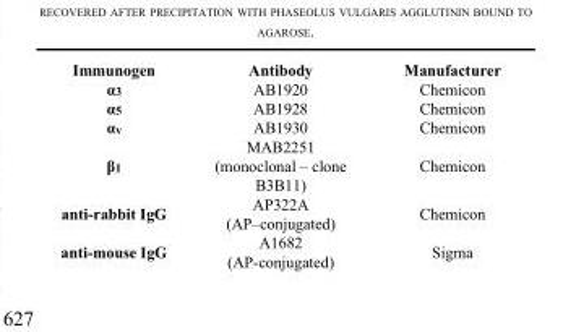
<table><thead><tr><td>Immunogen</td><td>Antibody</td><td>Manufacturer</td></tr></thead><tbody><tr><td>α<sub>3</sub></td><td>AB1920</td><td>Chemicon</td></tr><tr><td>α<sub>5</sub></td><td>AB1928</td><td>Chemicon</td></tr><tr><td>α<sub>v</sub></td><td>AB1930</td><td>Chemicon</td></tr><tr><td>β<sub>1</sub></td><td>MAB2251 (monoclonal – clone B3B11)</td><td>Chemicon</td></tr><tr><td>anti-rabbit IgG</td><td>AP322A (AP–conjugated)</td><td>Chemicon</td></tr><tr><td>anti-mouse IgG</td><td>A1682 (AP-conjugated)</td><td>Sigma</td></tr></tbody></table>